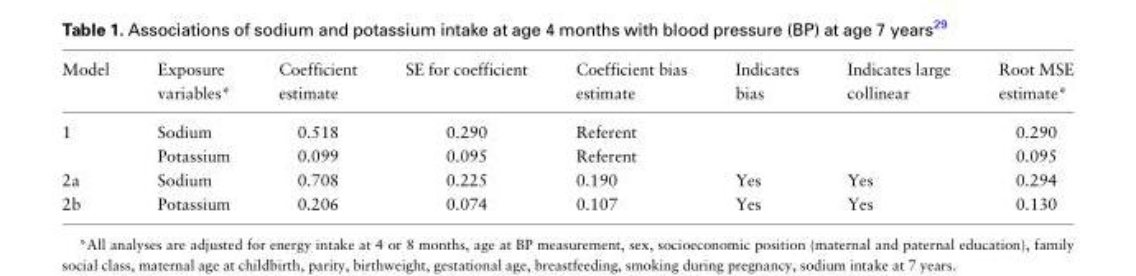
<table><thead><tr><td>Model</td><td>Exposure variables*</td><td>Coefficient estimate</td><td>SE for coefficient</td><td>Coefficient bias estimate</td><td>Indicates bias</td><td>Indicates large collinear</td><td>Root MSE estimate*</td></tr></thead><tbody><tr><td rowspan="2">1</td><td>Sodium</td><td>0.518</td><td>0.290</td><td>Referent</td><td></td><td></td><td>0.290</td></tr><tr><td>Potassium</td><td>0.099</td><td>0.095</td><td>Referent</td><td></td><td></td><td>0.095</td></tr><tr><td>2a</td><td>Sodium</td><td>0.708</td><td>0.225</td><td>0.190</td><td>Yes</td><td>Yes</td><td>0.294</td></tr><tr><td>2b</td><td>Potassium</td><td>0.206</td><td>0.074</td><td>0.107</td><td>Yes</td><td>Yes</td><td>0.130</td></tr></tbody></table>